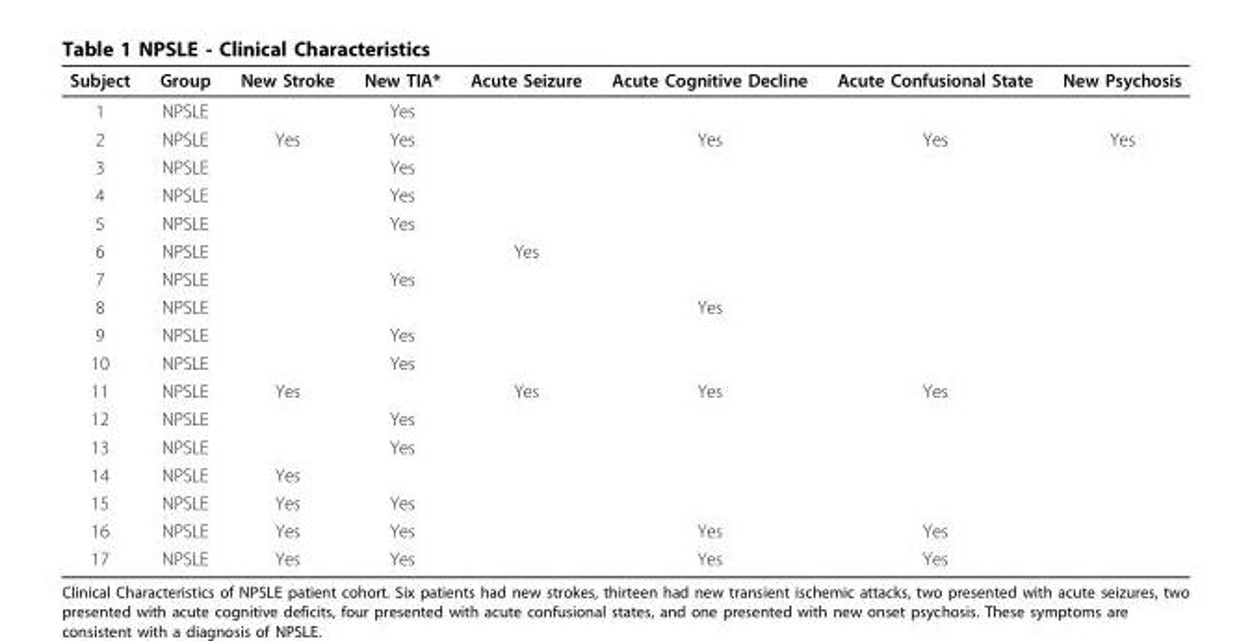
<table><thead><tr><td>Subject</td><td>Group</td><td>New Stroke</td><td>New TIA*</td><td>Acute Seizure</td><td>Acute Cognitive Decline</td><td>Acute Confusional State</td><td>New Psychosis</td></tr></thead><tbody><tr><td>1</td><td>NPSLE</td><td></td><td>Yes</td><td></td><td></td><td></td><td></td></tr><tr><td>2</td><td>NPSLE</td><td>Yes</td><td>Yes</td><td></td><td>Yes</td><td>Yes</td><td>Yes</td></tr><tr><td>3</td><td>NPSLE</td><td></td><td>Yes</td><td></td><td></td><td></td><td></td></tr><tr><td>4</td><td>NPSLE</td><td></td><td>Yes</td><td></td><td></td><td></td><td></td></tr><tr><td>5</td><td>NPSLE</td><td></td><td>Yes</td><td></td><td></td><td></td><td></td></tr><tr><td>6</td><td>NPSLE</td><td></td><td></td><td>Yes</td><td></td><td></td><td></td></tr><tr><td>7</td><td>NPSLE</td><td></td><td>Yes</td><td></td><td></td><td></td><td></td></tr><tr><td>8</td><td>NPSLE</td><td></td><td></td><td></td><td>Yes</td><td></td><td></td></tr><tr><td>9</td><td>NPSLE</td><td></td><td>Yes</td><td></td><td></td><td></td><td></td></tr><tr><td>10</td><td>NPSLE</td><td></td><td>Yes</td><td></td><td></td><td></td><td></td></tr><tr><td>11</td><td>NPSLE</td><td>Yes</td><td></td><td>Yes</td><td>Yes</td><td>Yes</td><td></td></tr><tr><td>12</td><td>NPSLE</td><td></td><td>Yes</td><td></td><td></td><td></td><td></td></tr><tr><td>13</td><td>NPSLE</td><td></td><td>Yes</td><td></td><td></td><td></td><td></td></tr><tr><td>14</td><td>NPSLE</td><td>Yes</td><td></td><td></td><td></td><td></td><td></td></tr><tr><td>15</td><td>NPSLE</td><td>Yes</td><td>Yes</td><td></td><td></td><td></td><td></td></tr><tr><td>16</td><td>NPSLE</td><td>Yes</td><td>Yes</td><td></td><td>Yes</td><td>Yes</td><td></td></tr><tr><td>17</td><td>NPSLE</td><td>Yes</td><td>Yes</td><td></td><td>Yes</td><td>Yes</td><td></td></tr></tbody></table>